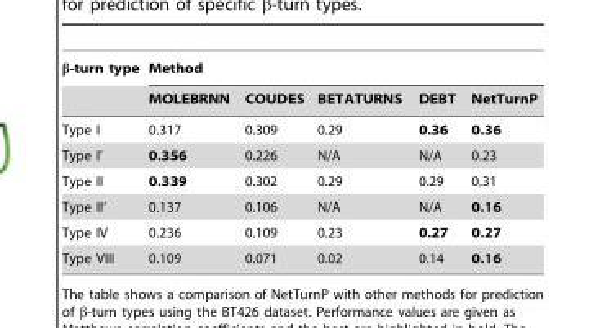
<table><thead><tr><td rowspan="2">β-turn type</td><td colspan="5">Method</td></tr><tr><td>MOLEBRNN</td><td>COUDES</td><td>BETATURNS</td><td>DEBT</td><td>NetTurnP</td></tr></thead><tbody><tr><td>Type I</td><td>0.317</td><td>0.309</td><td>0.29</td><td>0.36</td><td>0.36</td></tr><tr><td>Type I’</td><td>0.356</td><td>0.226</td><td>N/A</td><td>N/A</td><td>0.23</td></tr><tr><td>Type II</td><td>0.339</td><td>0.302</td><td>0.29</td><td>0.29</td><td>0.31</td></tr><tr><td>Type II’</td><td>0.137</td><td>0.106</td><td>N/A</td><td>N/A</td><td>0.16</td></tr><tr><td>Type IV</td><td>0.236</td><td>0.109</td><td>0.23</td><td>0.27</td><td>0.27</td></tr><tr><td>Type VIII</td><td>0.109</td><td>0.071</td><td>0.02</td><td>0.14</td><td>0.16</td></tr></tbody></table>